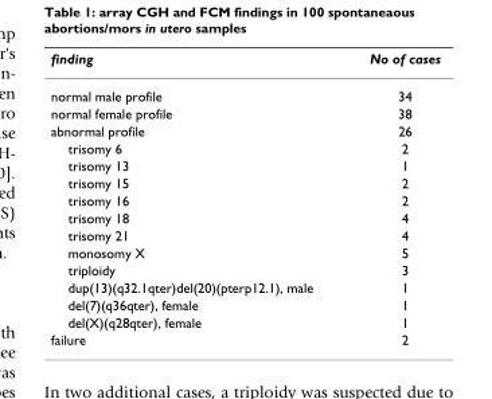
<table><thead><tr><td>finding</td><td>No of cases</td></tr></thead><tbody><tr><td>normal male profile</td><td>34</td></tr><tr><td>normal female profile</td><td>38</td></tr><tr><td>abnormal profile</td><td>26</td></tr><tr><td>trisomy 6</td><td>2</td></tr><tr><td>trisomy 13</td><td>1</td></tr><tr><td>trisomy 15</td><td>2</td></tr><tr><td>trisomy 16</td><td>2</td></tr><tr><td>trisomy 18</td><td>4</td></tr><tr><td>trisomy 21</td><td>4</td></tr><tr><td>monosomy X</td><td>5</td></tr><tr><td>triploidy</td><td>3</td></tr><tr><td>dup(13)(q32.1qter)del(20)(pterp12.1), male</td><td>1</td></tr><tr><td>del(7)(q36qter), female</td><td>1</td></tr><tr><td>del(X)(q28qter), female</td><td>1</td></tr><tr><td>failure</td><td>2</td></tr></tbody></table>